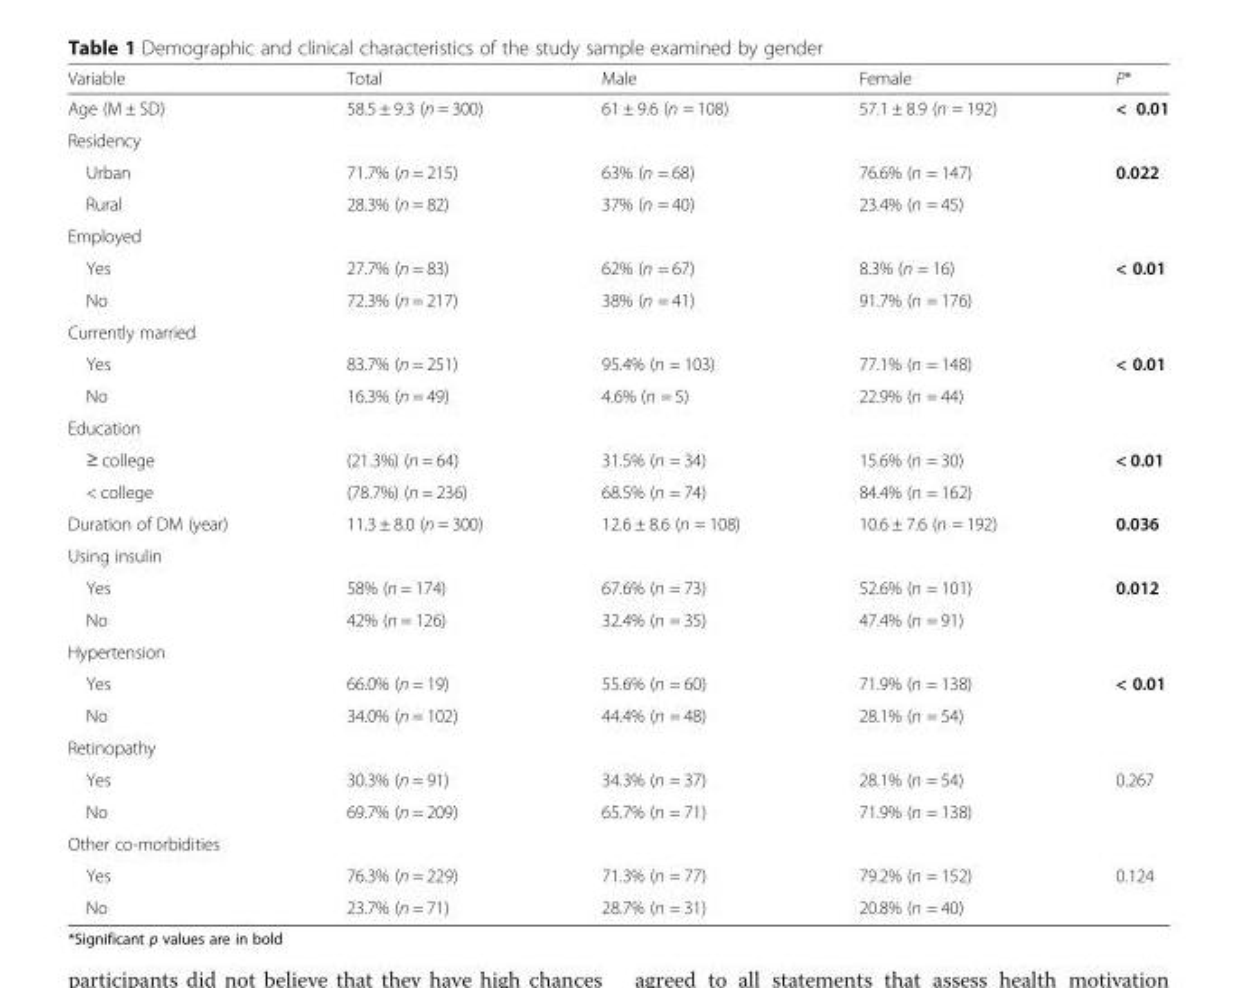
<table><thead><tr><td>Variable</td><td>Total</td><td>Male</td><td>Female</td><td>P*</td></tr></thead><tbody><tr><td>Age (M ± SD)</td><td>58.5 ± 9.3 (n = 300)</td><td>61 ± 9.6 (n = 108)</td><td>57.1 ± 8.9 (n = 192)</td><td>&lt; 0.01</td></tr><tr><td colspan="5">Residency</td></tr><tr><td>Urban</td><td>71.7% (n = 215)</td><td>63% (n = 68)</td><td>76.6% (n = 147)</td><td rowspan="2">0.022</td></tr><tr><td>Rural</td><td>28.3% (n = 82)</td><td>37% (n = 40)</td><td>23.4% (n = 45)</td></tr><tr><td colspan="5">Employed</td></tr><tr><td>Yes</td><td>27.7% (n = 83)</td><td>62% (n = 67)</td><td>8.3% (n = 16)</td><td rowspan="2">&lt; 0.01</td></tr><tr><td>No</td><td>72.3% (n = 217)</td><td>38% (n = 41)</td><td>91.7% (n = 176)</td></tr><tr><td colspan="5">Currently married</td></tr><tr><td>Yes</td><td>83.7% (n = 251)</td><td>95.4% (n = 103)</td><td>77.1% (n = 148)</td><td rowspan="2">&lt; 0.01</td></tr><tr><td>No</td><td>16.3% (n = 49)</td><td>4.6% (n = 5)</td><td>22.9% (n = 44)</td></tr><tr><td colspan="5">Education</td></tr><tr><td>≥ college</td><td>(21.3%) (n = 64)</td><td>31.5% (n = 34)</td><td>15.6% (n = 30)</td><td rowspan="2">&lt; 0.01</td></tr><tr><td>&lt; college</td><td>(78.7%) (n = 236)</td><td>68.5% (n = 74)</td><td>84.4% (n = 162)</td></tr><tr><td>Duration of DM (year)</td><td>11.3 ± 8.0 (n = 300)</td><td>12.6 ± 8.6 (n = 108)</td><td>10.6 ± 7.6 (n = 192)</td><td>0.036</td></tr><tr><td colspan="5">Using insulin</td></tr><tr><td>Yes</td><td>58% (n = 174)</td><td>67.6% (n = 73)</td><td>52.6% (n = 101)</td><td rowspan="2">0.012</td></tr><tr><td>No</td><td>42% (n = 126)</td><td>32.4% (n = 35)</td><td>47.4% (n = 91)</td></tr><tr><td colspan="5">Hypertension</td></tr><tr><td>Yes</td><td>66.0% (n = 19)</td><td>55.6% (n = 60)</td><td>71.9% (n = 138)</td><td rowspan="2">&lt; 0.01</td></tr><tr><td>No</td><td>34.0% (n = 102)</td><td>44.4% (n = 48)</td><td>28.1% (n = 54)</td></tr><tr><td colspan="5">Retinopathy</td></tr><tr><td>Yes</td><td>30.3% (n = 91)</td><td>34.3% (n = 37)</td><td>28.1% (n = 54)</td><td rowspan="2">0.267</td></tr><tr><td>No</td><td>69.7% (n = 209)</td><td>65.7% (n = 71)</td><td>71.9% (n = 138)</td></tr><tr><td colspan="5">Other co-morbidities</td></tr><tr><td>Yes</td><td>76.3% (n = 229)</td><td>71.3% (n = 77)</td><td>79.2% (n = 152)</td><td rowspan="2">0.124</td></tr><tr><td>No</td><td>23.7% (n = 71)</td><td>28.7% (n = 31)</td><td>20.8% (n = 40)</td></tr></tbody></table>